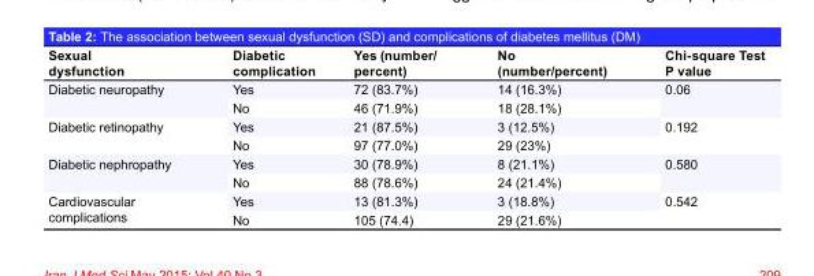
<table><thead><tr><td>Sexual dysfunction</td><td>Diabetic complication</td><td>Yes (number/ percent)</td><td>No (number/percent)</td><td>Chi-square Test P value</td></tr></thead><tbody><tr><td rowspan="2">Diabetic neuropathy</td><td>Yes</td><td>72 (83.7%)</td><td>14 (16.3%)</td><td rowspan="2">0.06</td></tr><tr><td>No</td><td>46 (71.9%)</td><td>18 (28.1%)</td></tr><tr><td rowspan="2">Diabetic retinopathy</td><td>Yes</td><td>21 (87.5%)</td><td>3 (12.5%)</td><td rowspan="2">0.192</td></tr><tr><td>No</td><td>97 (77.0%)</td><td>29 (23%)</td></tr><tr><td rowspan="2">Diabetic nephropathy</td><td>Yes</td><td>30 (78.9%)</td><td>8 (21.1%)</td><td rowspan="2">0.580</td></tr><tr><td>No</td><td>88 (78.6%)</td><td>24 (21.4%)</td></tr><tr><td rowspan="2">Cardiovascular complications</td><td>Yes</td><td>13 (81.3%)</td><td>3 (18.8%)</td><td rowspan="2">0.542</td></tr><tr><td>No</td><td>105 (74.4)</td><td>29 (21.6%)</td></tr></tbody></table>